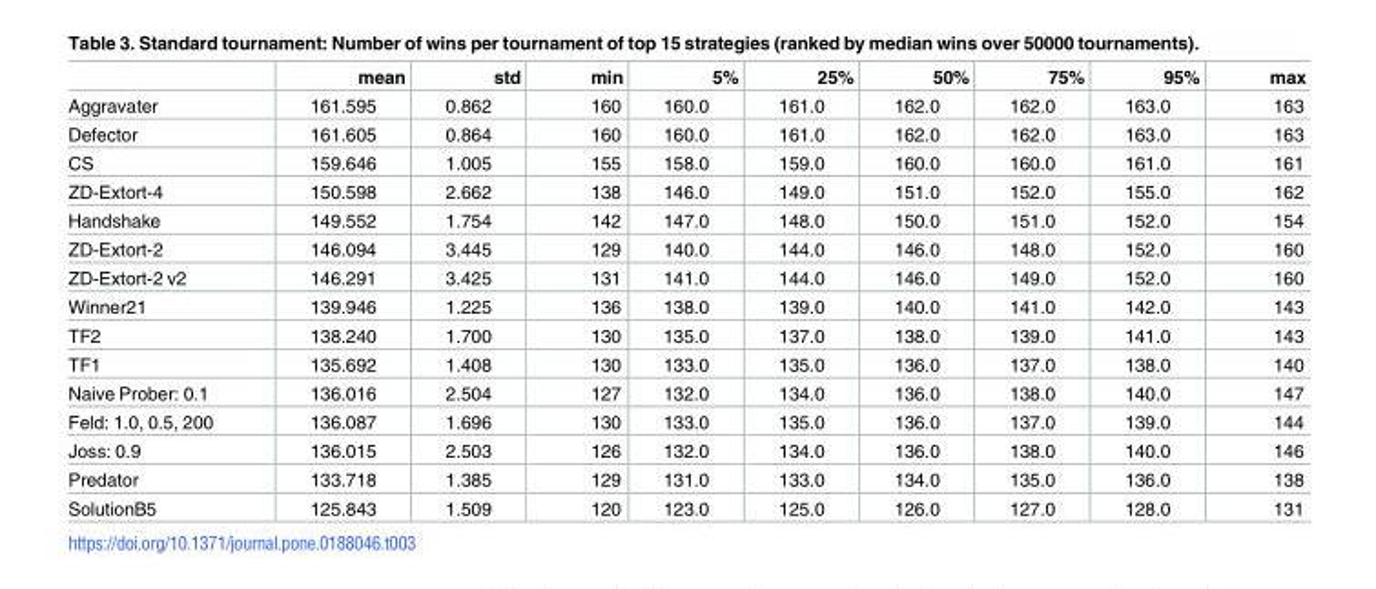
<table><thead><tr><td></td><td>mean</td><td>std</td><td>min</td><td>5%</td><td>25%</td><td>50%</td><td>75%</td><td>95%</td><td>max</td></tr></thead><tbody><tr><td>Aggravater</td><td>161.595</td><td>0.862</td><td>160</td><td>160.0</td><td>161.0</td><td>162.0</td><td>162.0</td><td>163.0</td><td>163</td></tr><tr><td>Defector</td><td>161.605</td><td>0.864</td><td>160</td><td>160.0</td><td>161.0</td><td>162.0</td><td>162.0</td><td>163.0</td><td>163</td></tr><tr><td>CS</td><td>159.646</td><td>1.005</td><td>155</td><td>158.0</td><td>159.0</td><td>160.0</td><td>160.0</td><td>161.0</td><td>161</td></tr><tr><td>ZD-Extort-4</td><td>150.598</td><td>2.662</td><td>138</td><td>146.0</td><td>149.0</td><td>151.0</td><td>152.0</td><td>155.0</td><td>162</td></tr><tr><td>Handshake</td><td>149.552</td><td>1.754</td><td>142</td><td>147.0</td><td>148.0</td><td>150.0</td><td>151.0</td><td>152.0</td><td>154</td></tr><tr><td>ZD-Extort-2</td><td>146.094</td><td>3.445</td><td>129</td><td>140.0</td><td>144.0</td><td>146.0</td><td>148.0</td><td>152.0</td><td>160</td></tr><tr><td>ZD-Extort-2 v2</td><td>146.291</td><td>3.425</td><td>131</td><td>141.0</td><td>144.0</td><td>146.0</td><td>149.0</td><td>152.0</td><td>160</td></tr><tr><td>Winner21</td><td>139.946</td><td>1.225</td><td>136</td><td>138.0</td><td>139.0</td><td>140.0</td><td>141.0</td><td>142.0</td><td>143</td></tr><tr><td>TF2</td><td>138.240</td><td>1.700</td><td>130</td><td>135.0</td><td>137.0</td><td>138.0</td><td>139.0</td><td>141.0</td><td>143</td></tr><tr><td>TF1</td><td>135.692</td><td>1.408</td><td>130</td><td>133.0</td><td>135.0</td><td>136.0</td><td>137.0</td><td>138.0</td><td>140</td></tr><tr><td>Naive Prober: 0.1</td><td>136.016</td><td>2.504</td><td>127</td><td>132.0</td><td>134.0</td><td>136.0</td><td>138.0</td><td>140.0</td><td>147</td></tr><tr><td>Feld: 1.0, 0.5, 200</td><td>136.087</td><td>1.696</td><td>130</td><td>133.0</td><td>135.0</td><td>136.0</td><td>137.0</td><td>139.0</td><td>144</td></tr><tr><td>Joss: 0.9</td><td>136.015</td><td>2.503</td><td>126</td><td>132.0</td><td>134.0</td><td>136.0</td><td>138.0</td><td>140.0</td><td>146</td></tr><tr><td>Predator</td><td>133.718</td><td>1.385</td><td>129</td><td>131.0</td><td>133.0</td><td>134.0</td><td>135.0</td><td>136.0</td><td>138</td></tr><tr><td>SolutionB5</td><td>125.843</td><td>1.509</td><td>120</td><td>123.0</td><td>125.0</td><td>126.0</td><td>127.0</td><td>128.0</td><td>131</td></tr></tbody></table>